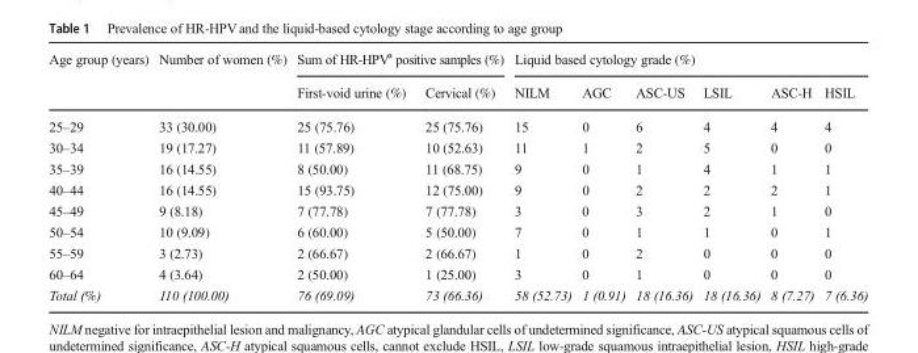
<table><thead><tr><td rowspan="2">Age group (years)</td><td rowspan="2">Number of women (%)</td><td colspan="2">Sum of HR-HPV<sup>a</sup> positive samples (%)</td><td colspan="6">Liquid based cytology grade (%)</td></tr><tr><td>First-void urine (%)</td><td>Cervical (%)</td><td>NILM</td><td>AGC</td><td>ASC-US</td><td>LSIL</td><td>ASC-H</td><td>HSIL</td></tr></thead><tbody><tr><td>25–29</td><td>33 (30.00)</td><td>25 (75.76)</td><td>25 (75.76)</td><td>15</td><td>0</td><td>6</td><td>4</td><td>4</td><td>4</td></tr><tr><td>30–34</td><td>19 (17.27)</td><td>11 (57.89)</td><td>10 (52.63)</td><td>11</td><td>1</td><td>2</td><td>5</td><td>0</td><td>0</td></tr><tr><td>35–39</td><td>16 (14.55)</td><td>8 (50.00)</td><td>11 (68.75)</td><td>9</td><td>0</td><td>1</td><td>4</td><td>1</td><td>1</td></tr><tr><td>40–44</td><td>16 (14.55)</td><td>15 (93.75)</td><td>12 (75.00)</td><td>9</td><td>0</td><td>2</td><td>2</td><td>2</td><td>1</td></tr><tr><td>45–49</td><td>9 (8.18)</td><td>7 (77.78)</td><td>7 (77.78)</td><td>3</td><td>0</td><td>3</td><td>2</td><td>1</td><td>0</td></tr><tr><td>50–54</td><td>10 (9.09)</td><td>6 (60.00)</td><td>5 (50.00)</td><td>7</td><td>0</td><td>1</td><td>1</td><td>0</td><td>1</td></tr><tr><td>55–59</td><td>3 (2.73)</td><td>2 (66.67)</td><td>2 (66.67)</td><td>1</td><td>0</td><td>2</td><td>0</td><td>0</td><td>0</td></tr><tr><td>60–64</td><td>4 (3.64)</td><td>2 (50.00)</td><td>1 (25.00)</td><td>3</td><td>0</td><td>1</td><td>0</td><td>0</td><td>0</td></tr><tr><td>Total (%)</td><td>110 (100.00)</td><td>76 (69.09)</td><td>73 (66.36)</td><td>58 (52.73)</td><td>1 (0.91)</td><td>18 (16.36)</td><td>18 (16.36)</td><td>8 (7.27)</td><td>7 (6.36)</td></tr></tbody></table>